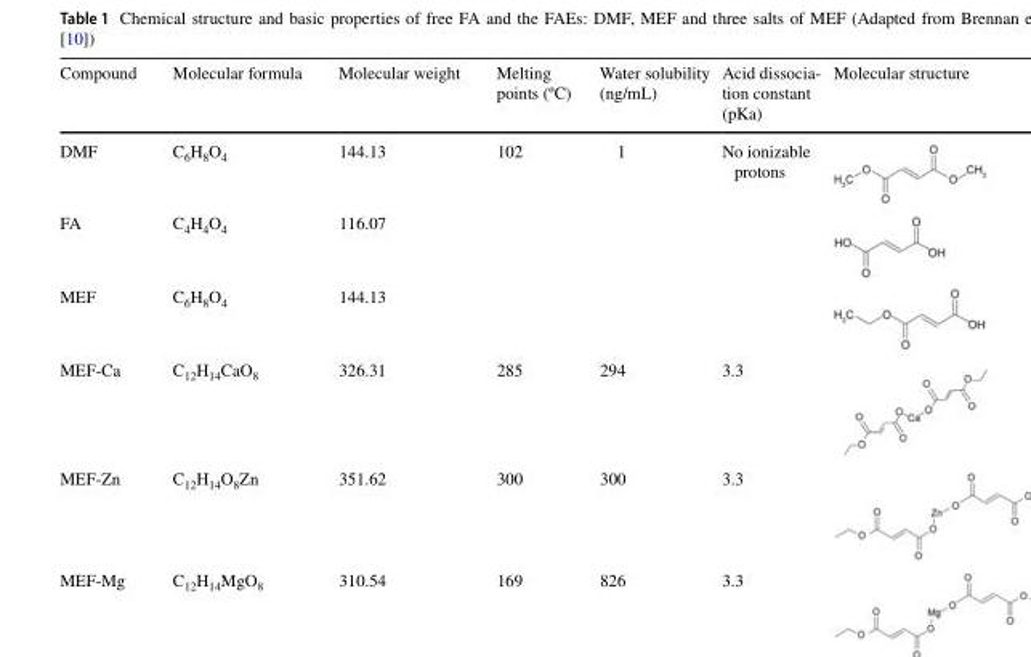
<table><thead><tr><td>Compound</td><td>Molecular formula</td><td>Molecular weight</td><td>Melting points (ºC)</td><td>Water solubility (ng/mL)</td><td>Acid dissocia- tion constant (pKa)</td><td>Molecular structure</td></tr></thead><tbody><tr><td>DMF</td><td>C<sub>6</sub>H<sub>8</sub>O<sub>4</sub></td><td>144.13</td><td>102</td><td>1</td><td>No ionizable protons</td><td></td></tr><tr><td>FA</td><td>C<sub>4</sub>H<sub>4</sub>O<sub>4</sub></td><td>116.07</td><td></td><td></td><td></td><td></td></tr><tr><td>MEF</td><td>C<sub>6</sub>H<sub>8</sub>O<sub>4</sub></td><td>144.13</td><td></td><td></td><td></td><td></td></tr><tr><td>MEF-Ca</td><td>C<sub>12</sub>H<sub>14</sub>CaO<sub>8</sub></td><td>326.31</td><td>285</td><td>294</td><td>3.3</td><td></td></tr><tr><td>MEF-Zn</td><td>C<sub>12</sub>H<sub>14</sub>O<sub>8</sub>Zn</td><td>351.62</td><td>300</td><td>300</td><td>3.3</td><td></td></tr><tr><td>MEF-Mg</td><td>C<sub>12</sub>H<sub>14</sub>MgO<sub>8</sub></td><td>310.54</td><td>169</td><td>826</td><td>3.3</td><td></td></tr></tbody></table>